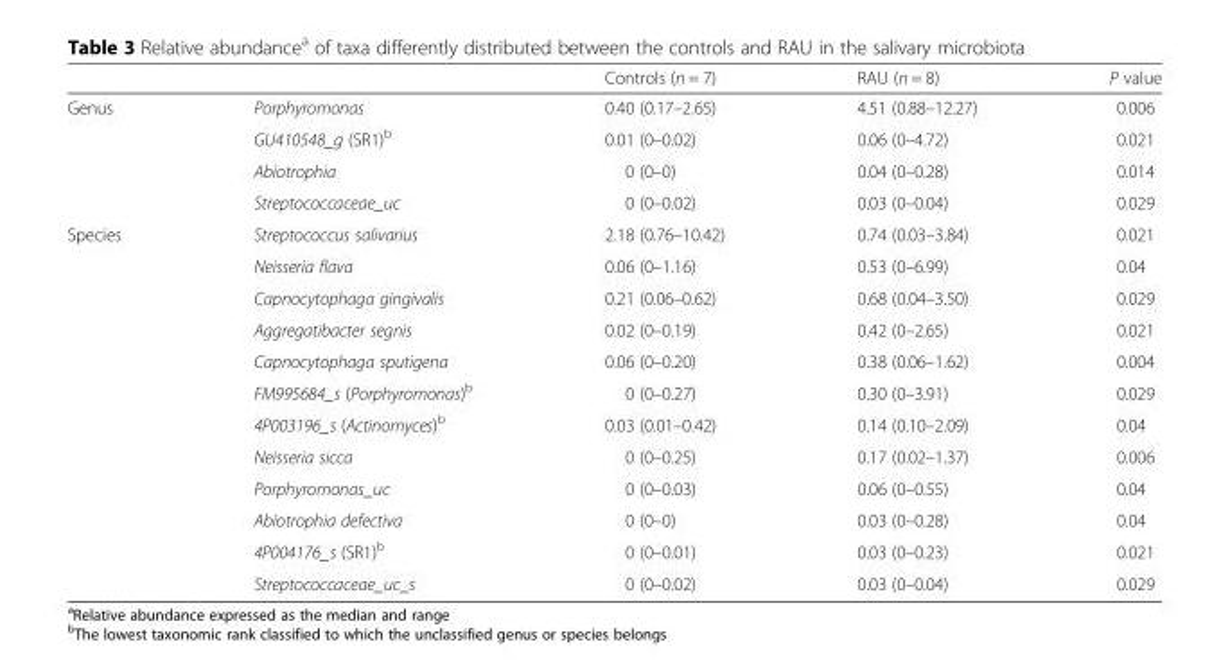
<table><thead><tr><td></td><td></td><td>Controls (n = 7)</td><td>RAU (n = 8)</td><td>P value</td></tr></thead><tbody><tr><td rowspan="4">Genus</td><td>Porphyromonas</td><td>0.40 (0.17–2.65)</td><td>4.51 (0.88–12.27)</td><td>0.006</td></tr><tr><td>GU410548_g (SR1)<sup>b</sup></td><td>0.01 (0–0.02)</td><td>0.06 (0–4.72)</td><td>0.021</td></tr><tr><td>Abiotrophia</td><td>0 (0–0)</td><td>0.04 (0–0.28)</td><td>0.014</td></tr><tr><td>Streptococcaceae_uc</td><td>0 (0–0.02)</td><td>0.03 (0–0.04)</td><td>0.029</td></tr><tr><td rowspan="12">Species</td><td>Streptococcus salivarius</td><td>2.18 (0.76–10.42)</td><td>0.74 (0.03–3.84)</td><td>0.021</td></tr><tr><td>Neisseria flava</td><td>0.06 (0–1.16)</td><td>0.53 (0–6.99)</td><td>0.04</td></tr><tr><td>Capnocytophaga gingivalis</td><td>0.21 (0.06–0.62)</td><td>0.68 (0.04–3.50)</td><td>0.029</td></tr><tr><td>Aggregatibacter segnis</td><td>0.02 (0–0.19)</td><td>0.42 (0–2.65)</td><td>0.021</td></tr><tr><td>Capnocytophaga sputigena</td><td>0.06 (0–0.20)</td><td>0.38 (0.06–1.62)</td><td>0.004</td></tr><tr><td>FM995684_s (Porphyromonas)<sup>b</sup></td><td>0 (0–0.27)</td><td>0.30 (0–3.91)</td><td>0.029</td></tr><tr><td>4P003196_s (Actinomyces)<sup>b</sup></td><td>0.03 (0.01–0.42)</td><td>0.14 (0.10–2.09)</td><td>0.04</td></tr><tr><td>Neisseria sicca</td><td>0 (0–0.25)</td><td>0.17 (0.02–1.37)</td><td>0.006</td></tr><tr><td>Porphyromonas_uc</td><td>0 (0–0.03)</td><td>0.06 (0–0.55)</td><td>0.04</td></tr><tr><td>Abiotrophia defectiva</td><td>0 (0–0)</td><td>0.03 (0–0.28)</td><td>0.04</td></tr><tr><td>4P004176_s (SR1)<sup>b</sup></td><td>0 (0–0.01)</td><td>0.03 (0–0.23)</td><td>0.021</td></tr><tr><td>Streptococcaceae_uc_s</td><td>0 (0–0.02)</td><td>0.03 (0–0.04)</td><td>0.029</td></tr></tbody></table>